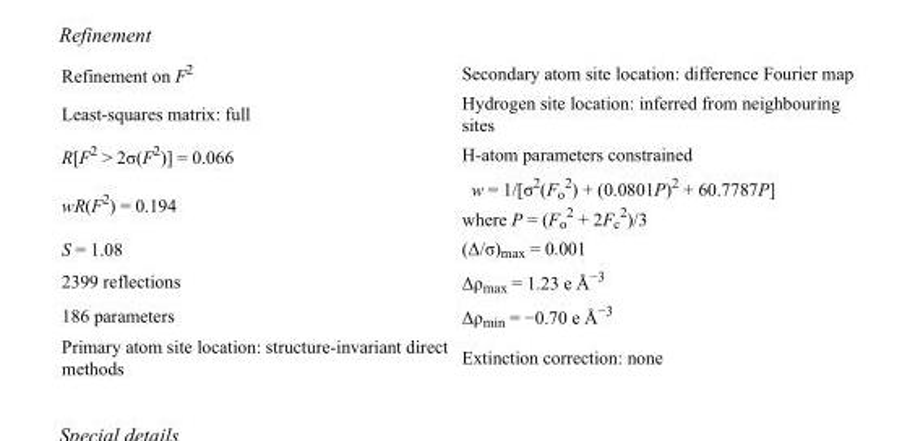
<table><tbody><tr><td>Refinement on F<sup>2</sup></td><td>Secondary atom site location: difference Fourier map</td></tr><tr><td>Least-squares matrix: full</td><td>Hydrogen site location: inferred from neighbouring sites</td></tr><tr><td>R[F<sup>2</sup> &gt; 2σ(F<sup>2</sup>)] = 0.066</td><td>H-atom parameters constrained</td></tr><tr><td>wR(F<sup>2</sup>) = 0.194</td><td>w = 1/[σ<sup>2</sup>(F<sub>o</sub> <sup>2</sup>) + (0.0801P)<sup>2</sup> + 60.7787P] where P = (F<sub>o</sub> <sup>2</sup> + 2F<sub>c</sub> <sup>2</sup>)/3</td></tr><tr><td>S = 1.08</td><td>(Δ/σ)<sub>max</sub> = 0.001</td></tr><tr><td>2399 reflections</td><td>Δρ<sub>max</sub> = 1.23 e Å<sup>−3</sup></td></tr><tr><td>186 parameters</td><td>Δρ<sub>min</sub> = −0.70 e Å<sup>−3</sup></td></tr><tr><td>Primary atom site location: structure-invariant direct methods</td><td>Extinction correction: none</td></tr></tbody></table>